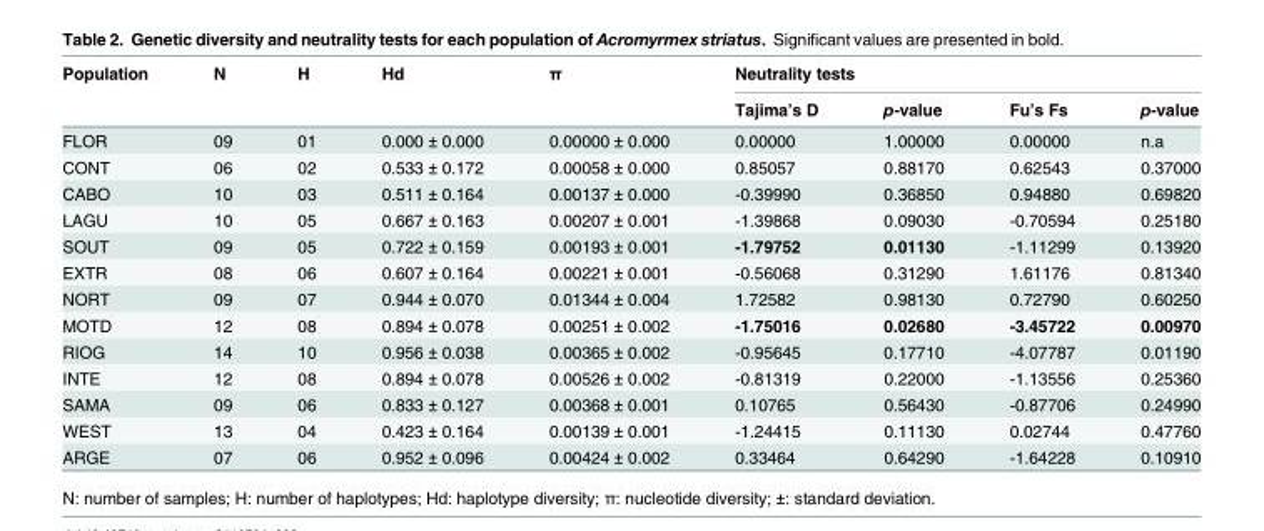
<table><thead><tr><td rowspan="2">Population</td><td rowspan="2">N</td><td rowspan="2">H</td><td rowspan="2">Hd</td><td rowspan="2">π</td><td colspan="4">Neutrality tests</td></tr><tr><td>Tajima’s D</td><td>p-value</td><td>Fu’s Fs</td><td>p-value</td></tr></thead><tbody><tr><td>FLOR</td><td>09</td><td>01</td><td>0.000 ± 0.000</td><td>0.00000 ± 0.000</td><td>0.00000</td><td>1.00000</td><td>0.00000</td><td>n.a</td></tr><tr><td>CONT</td><td>06</td><td>02</td><td>0.533 ± 0.172</td><td>0.00058 ± 0.000</td><td>0.85057</td><td>0.88170</td><td>0.62543</td><td>0.37000</td></tr><tr><td>CABO</td><td>10</td><td>03</td><td>0.511 ± 0.164</td><td>0.00137 ± 0.000</td><td>-0.39990</td><td>0.36850</td><td>0.94880</td><td>0.69820</td></tr><tr><td>LAGU</td><td>10</td><td>05</td><td>0.667 ± 0.163</td><td>0.00207 ± 0.001</td><td>-1.39868</td><td>0.09030</td><td>-0.70594</td><td>0.25180</td></tr><tr><td>SOUT</td><td>09</td><td>05</td><td>0.722 ± 0.159</td><td>0.00193 ± 0.001</td><td>-1.79752</td><td>0.01130</td><td>-1.11299</td><td>0.13920</td></tr><tr><td>EXTR</td><td>08</td><td>06</td><td>0.607 ± 0.164</td><td>0.00221 ± 0.001</td><td>-0.56068</td><td>0.31290</td><td>1.61176</td><td>0.81340</td></tr><tr><td>NORT</td><td>09</td><td>07</td><td>0.944 ± 0.070</td><td>0.01344 ± 0.004</td><td>1.72582</td><td>0.98130</td><td>0.72790</td><td>0.60250</td></tr><tr><td>MOTD</td><td>12</td><td>08</td><td>0.894 ± 0.078</td><td>0.00251 ± 0.002</td><td>-1.75016</td><td>0.02680</td><td>-3.45722</td><td>0.00970</td></tr><tr><td>RIOG</td><td>14</td><td>10</td><td>0.956 ± 0.038</td><td>0.00365 ± 0.002</td><td>-0.95645</td><td>0.17710</td><td>-4.07787</td><td>0.01190</td></tr><tr><td>INTE</td><td>12</td><td>08</td><td>0.894 ± 0.078</td><td>0.00526 ± 0.002</td><td>-0.81319</td><td>0.22000</td><td>-1.13556</td><td>0.25360</td></tr><tr><td>SAMA</td><td>09</td><td>06</td><td>0.833 ± 0.127</td><td>0.00368 ± 0.001</td><td>0.10765</td><td>0.56430</td><td>-0.87706</td><td>0.24990</td></tr><tr><td>WEST</td><td>13</td><td>04</td><td>0.423 ± 0.164</td><td>0.00139 ± 0.001</td><td>-1.24415</td><td>0.11130</td><td>0.02744</td><td>0.47760</td></tr><tr><td>ARGE</td><td>07</td><td>06</td><td>0.952 ± 0.096</td><td>0.00424 ± 0.002</td><td>0.33464</td><td>0.64290</td><td>-1.64228</td><td>0.10910</td></tr></tbody></table>